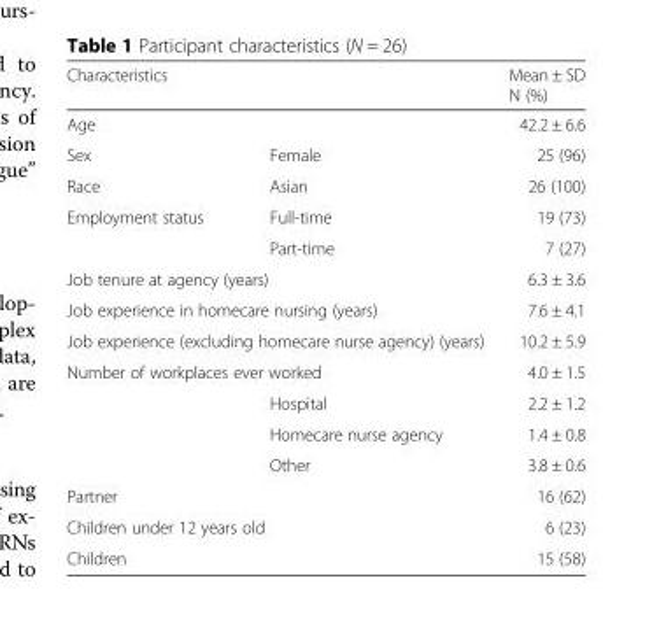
<table><thead><tr><td colspan="2">Characteristics</td><td rowspan="2">Mean ± SD N (%) 42.2 ± 6.6</td></tr><tr><td>Age</td><td></td></tr></thead><tbody><tr><td>Sex</td><td>Female</td><td>25 (96)</td></tr><tr><td>Race</td><td>Asian</td><td>26 (100)</td></tr><tr><td rowspan="2">Employment status</td><td>Full-time</td><td>19 (73)</td></tr><tr><td>Part-time</td><td>7 (27)</td></tr><tr><td colspan="2">Job tenure at agency (years)</td><td>6.3 ± 3.6</td></tr><tr><td colspan="2">Job experience in homecare nursing (years)</td><td>7.6 ± 4.1</td></tr><tr><td colspan="2">Job experience (excluding homecare nurse agency) (years)</td><td>10.2 ± 5.9</td></tr><tr><td colspan="2">Number of workplaces ever worked</td><td>4.0 ± 1.5</td></tr><tr><td></td><td>Hospital</td><td>2.2 ± 1.2</td></tr><tr><td></td><td>Homecare nurse agency</td><td>1.4 ± 0.8</td></tr><tr><td></td><td>Other</td><td>3.8 ± 0.6</td></tr><tr><td>Partner</td><td></td><td>16 (62)</td></tr><tr><td colspan="2">Children under 12 years old</td><td>6 (23)</td></tr><tr><td>Children</td><td></td><td>15 (58)</td></tr></tbody></table>